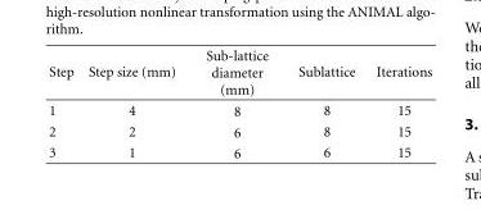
<table><thead><tr><td>Step</td><td>Step size (mm)</td><td>Sub-lattice diameter (mm)</td><td>Sublattice</td><td>Iterations</td></tr></thead><tbody><tr><td>1</td><td>4</td><td>8</td><td>8</td><td>15</td></tr><tr><td>2</td><td>2</td><td>6</td><td>8</td><td>15</td></tr><tr><td>3</td><td>1</td><td>6</td><td>6</td><td>15</td></tr></tbody></table>